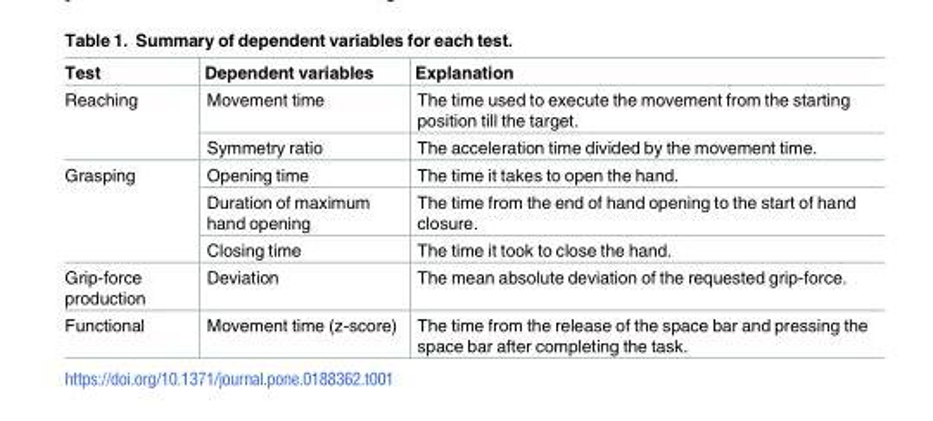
<table><thead><tr><td>Test</td><td>Dependent variables</td><td>Explanation</td></tr></thead><tbody><tr><td rowspan="2">Reaching</td><td>Movement time</td><td>The time used to execute the movement from the starting position till the target.</td></tr><tr><td>Symmetry ratio</td><td>The acceleration time divided by the movement time.</td></tr><tr><td rowspan="3">Grasping</td><td>Opening time</td><td>The time it takes to open the hand.</td></tr><tr><td>Duration of maximum hand opening</td><td>The time from the end of hand opening to the start of hand closure.</td></tr><tr><td>Closing time</td><td>The time it took to close the hand.</td></tr><tr><td>Grip-force production</td><td>Deviation</td><td>The mean absolute deviation of the requested grip-force.</td></tr><tr><td>Functional</td><td>Movement time (z-score)</td><td>The time from the release of the space bar and pressing the space bar after completing the task.</td></tr></tbody></table>